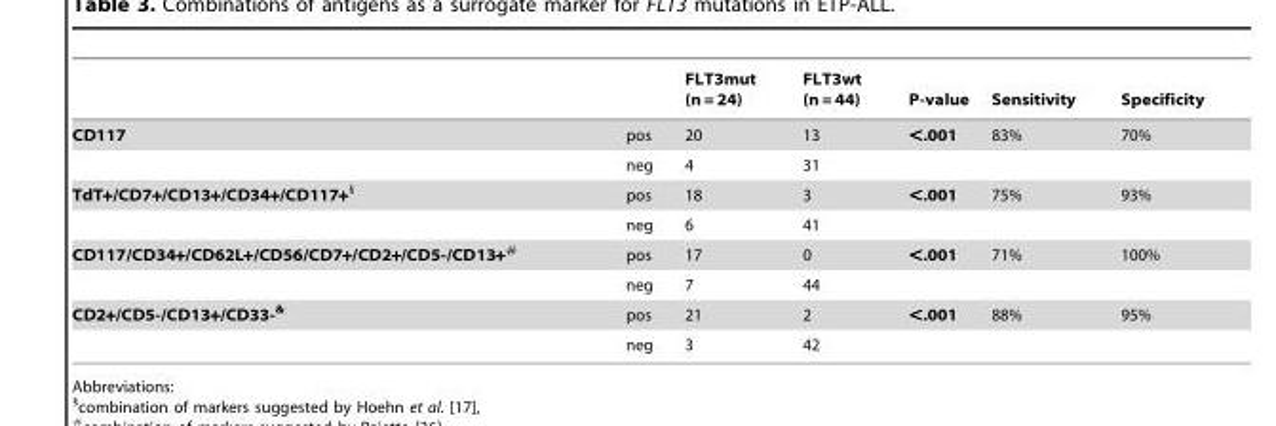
<table><thead><tr><td></td><td></td><td>FLT3mut (n = 24)</td><td>FLT3wt (n = 44)</td><td>P-value</td><td>Sensitivity</td><td>Specificity</td></tr></thead><tbody><tr><td rowspan="2">CD117</td><td>pos</td><td>20</td><td>13</td><td>&lt;.001</td><td>83%</td><td>70%</td></tr><tr><td>neg</td><td>4</td><td>31</td><td></td><td></td><td></td></tr><tr><td rowspan="2">TdT+/CD7+/CD13+/CD34+/CD117+§</td><td>pos</td><td>18</td><td>3</td><td>&lt;.001</td><td>75%</td><td>93%</td></tr><tr><td>neg</td><td>6</td><td>41</td><td></td><td></td><td></td></tr><tr><td rowspan="2">CD117/CD34+/CD62L+/CD56/CD7+/CD2+/CD5-/CD13+#</td><td>pos</td><td>17</td><td>0</td><td>&lt;.001</td><td>71%</td><td>100%</td></tr><tr><td>neg</td><td>7</td><td>44</td><td></td><td></td><td></td></tr><tr><td rowspan="2">CD2+/CD5-/CD13+/CD33-&amp;</td><td>pos</td><td>21</td><td>2</td><td>&lt;.001</td><td>88%</td><td>95%</td></tr><tr><td>neg</td><td>3</td><td>42</td><td></td><td></td><td></td></tr></tbody></table>